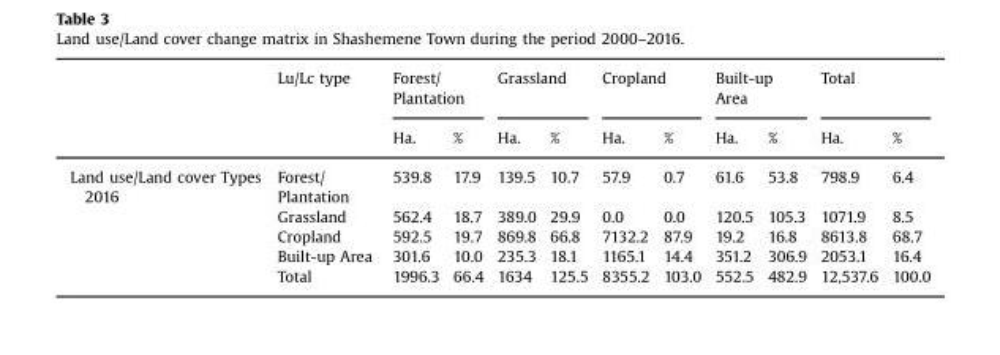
<table><thead><tr><td rowspan="2"></td><td rowspan="2">Lu/Lc type</td><td colspan="2">Forest/ Plantation</td><td colspan="2">Grassland</td><td colspan="2">Cropland</td><td colspan="2">Built-up Area</td><td colspan="2">Total</td></tr><tr><td>Ha.</td><td>%</td><td>Ha.</td><td>%</td><td>Ha.</td><td>%</td><td>Ha.</td><td>%</td><td>Ha.</td><td>%</td></tr></thead><tbody><tr><td rowspan="5">Land use/Land cover Types 2016</td><td>Forest/ Plantation</td><td>539.8</td><td>17.9</td><td>139.5</td><td>10.7</td><td>57.9</td><td>0.7</td><td>61.6</td><td>53.8</td><td>798.9</td><td>6.4</td></tr><tr><td>Grassland</td><td>562.4</td><td>18.7</td><td>389.0</td><td>29.9</td><td>0.0</td><td>0.0</td><td>120.5</td><td>105.3</td><td>1071.9</td><td>8.5</td></tr><tr><td>Cropland</td><td>592.5</td><td>19.7</td><td>869.8</td><td>66.8</td><td>7132.2</td><td>87.9</td><td>19.2</td><td>16.8</td><td>8613.8</td><td>68.7</td></tr><tr><td>Built-up Area</td><td>301.6</td><td>10.0</td><td>235.3</td><td>18.1</td><td>1165.1</td><td>14.4</td><td>351.2</td><td>306.9</td><td>2053.1</td><td>16.4</td></tr><tr><td>Total</td><td>1996.3</td><td>66.4</td><td>1634</td><td>125.5</td><td>8355.2</td><td>103.0</td><td>552.5</td><td>482.9</td><td>12,537.6</td><td>100.0</td></tr></tbody></table>